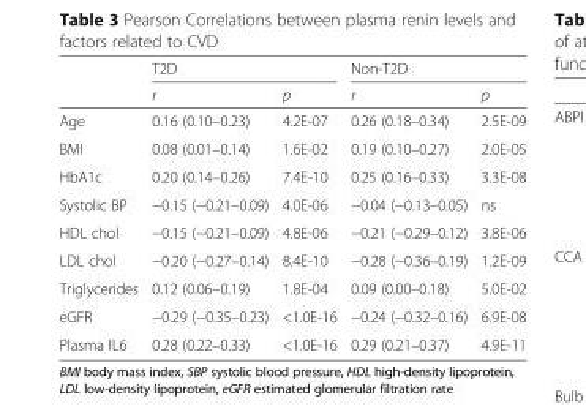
<table><thead><tr><td rowspan="2"></td><td colspan="2">T2D</td><td colspan="2">Non-T2D</td></tr><tr><td>r</td><td>p</td><td>r</td><td>p</td></tr></thead><tbody><tr><td>Age</td><td>0.16 (0.10–0.23)</td><td>4.2E-07</td><td>0.26 (0.18–0.34)</td><td>2.5E-09</td></tr><tr><td>BMI</td><td>0.08 (0.01–0.14)</td><td>1.6E-02</td><td>0.19 (0.10–0.27)</td><td>2.0E-05</td></tr><tr><td>HbA1c</td><td>0.20 (0.14–0.26)</td><td>7.4E-10</td><td>0.25 (0.16–0.33)</td><td>3.3E-08</td></tr><tr><td>Systolic BP</td><td>−0.15 (−0.21–0.09)</td><td>4.0E-06</td><td>−0.04 (−0.13–0.05)</td><td>ns</td></tr><tr><td>HDL chol</td><td>−0.15 (−0.21–0.09)</td><td>4.8E-06</td><td>−0.21 (−0.29–0.12)</td><td>3.8E-06</td></tr><tr><td>LDL chol</td><td>−0.20 (−0.27–0.14)</td><td>8.4E-10</td><td>−0.28 (−0.36–0.19)</td><td>1.2E-09</td></tr><tr><td>Triglycerides</td><td>0.12 (0.06–0.19)</td><td>1.8E-04</td><td>0.09 (0.00–0.18)</td><td>5.0E-02</td></tr><tr><td>eGFR</td><td>−0.29 (−0.35–0.23)</td><td>&lt;1.0E-16</td><td>−0.24 (−0.32–0.16)</td><td>6.9E-08</td></tr><tr><td>Plasma IL6</td><td>0.28 (0.22–0.33)</td><td>&lt;1.0E-16</td><td>0.29 (0.21–0.37)</td><td>4.9E-11</td></tr></tbody></table>